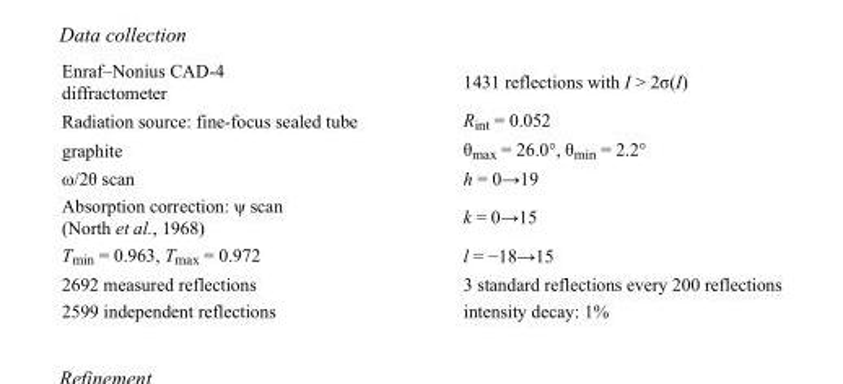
<table><tbody><tr><td>Enraf–Nonius CAD-4 diffractometer</td><td>1431 reflections with I &gt; 2σ(I)</td></tr><tr><td>Radiation source: fine-focus sealed tube</td><td>R<sub>int</sub> = 0.052</td></tr><tr><td>graphite</td><td>θ<sub>max</sub> = 26.0°, θ<sub>min</sub> = 2.2°</td></tr><tr><td>ω/2θ scan</td><td>h = 0→19</td></tr><tr><td>Absorption correction: ψ scan (North et al., 1968)</td><td>k = 0→15</td></tr><tr><td>T<sub>min</sub> = 0.963, T<sub>max</sub> = 0.972</td><td>l = −18→15</td></tr><tr><td>2692 measured reflections</td><td>3 standard reflections every 200 reflections</td></tr><tr><td>2599 independent reflections</td><td>intensity decay: 1%</td></tr></tbody></table>